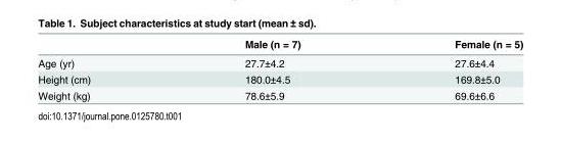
<table><thead><tr><td></td><td>Male (n = 7)</td><td>Female (n = 5)</td></tr></thead><tbody><tr><td>Age (yr)</td><td>27.7±4.2</td><td>27.6±4.4</td></tr><tr><td>Height (cm)</td><td>180.0±4.5</td><td>169.8±5.0</td></tr><tr><td>Weight (kg)</td><td>78.6±5.9</td><td>69.6±6.6</td></tr></tbody></table>